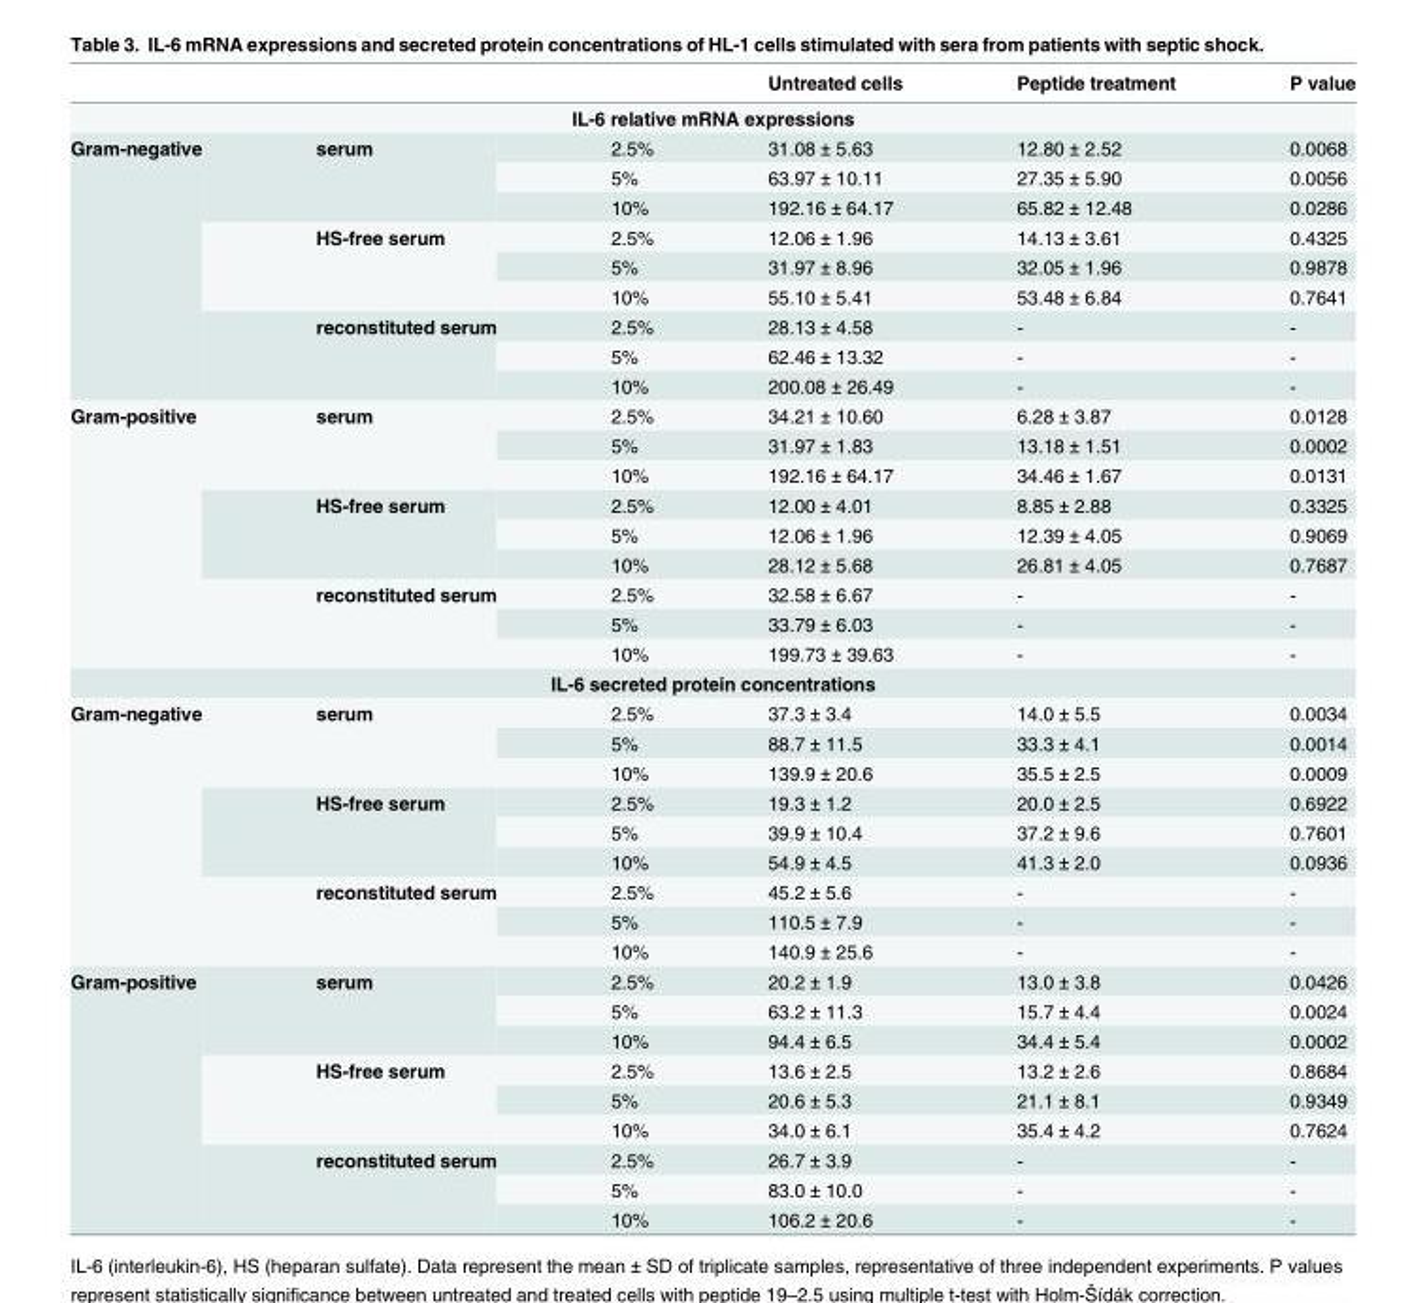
<table><thead><tr><td></td><td></td><td></td><td>Untreated cells</td><td>Peptide treatment</td><td>P value</td></tr></thead><tbody><tr><td colspan="6">IL-6 relative mRNA expressions</td></tr><tr><td rowspan="9">Gram-negative</td><td rowspan="3">serum</td><td>2.5%</td><td>31.08 ± 5.63</td><td>12.80 ± 2.52</td><td>0.0068</td></tr><tr><td>5%</td><td>63.97 ± 10.11</td><td>27.35 ± 5.90</td><td>0.0056</td></tr><tr><td>10%</td><td>192.16 ± 64.17</td><td>65.82 ± 12.48</td><td>0.0286</td></tr><tr><td rowspan="3">HS-free serum</td><td>2.5%</td><td>12.06 ± 1.96</td><td>14.13 ± 3.61</td><td>0.4325</td></tr><tr><td>5%</td><td>31.97 ± 8.96</td><td>32.05 ± 1.96</td><td>0.9878</td></tr><tr><td>10%</td><td>55.10 ± 5.41</td><td>53.48 ± 6.84</td><td>0.7641</td></tr><tr><td rowspan="3">reconstituted serum</td><td>2.5%</td><td>28.13 ± 4.58</td><td>-</td><td>-</td></tr><tr><td>5%</td><td>62.46 ± 13.32</td><td>-</td><td>-</td></tr><tr><td>10%</td><td>200.08 ± 26.49</td><td>-</td><td>-</td></tr><tr><td rowspan="9">Gram-positive</td><td rowspan="3">serum</td><td>2.5%</td><td>34.21 ± 10.60</td><td>6.28 ± 3.87</td><td>0.0128</td></tr><tr><td>5%</td><td>31.97 ± 1.83</td><td>13.18 ± 1.51</td><td>0.0002</td></tr><tr><td>10%</td><td>192.16 ± 64.17</td><td>34.46 ± 1.67</td><td>0.0131</td></tr><tr><td rowspan="3">HS-free serum</td><td>2.5%</td><td>12.00 ± 4.01</td><td>8.85 ± 2.88</td><td>0.3325</td></tr><tr><td>5%</td><td>12.06 ± 1.96</td><td>12.39 ± 4.05</td><td>0.9069</td></tr><tr><td>10%</td><td>28.12 ± 5.68</td><td>26.81 ± 4.05</td><td>0.7687</td></tr><tr><td rowspan="3">reconstituted serum</td><td>2.5%</td><td>32.58 ± 6.67</td><td>-</td><td>-</td></tr><tr><td>5%</td><td>33.79 ± 6.03</td><td>-</td><td>-</td></tr><tr><td>10%</td><td>199.73 ± 39.63</td><td>-</td><td>-</td></tr><tr><td colspan="6">IL-6 secreted protein concentrations</td></tr><tr><td rowspan="9">Gram-negative</td><td rowspan="3">serum</td><td>2.5%</td><td>37.3 ± 3.4</td><td>14.0 ± 5.5</td><td>0.0034</td></tr><tr><td>5%</td><td>88.7 ± 11.5</td><td>33.3 ± 4.1</td><td>0.0014</td></tr><tr><td>10%</td><td>139.9 ± 20.6</td><td>35.5 ± 2.5</td><td>0.0009</td></tr><tr><td rowspan="3">HS-free serum</td><td>2.5%</td><td>19.3 ± 1.2</td><td>20.0 ± 2.5</td><td>0.6922</td></tr><tr><td>5%</td><td>39.9 ± 10.4</td><td>37.2 ± 9.6</td><td>0.7601</td></tr><tr><td>10%</td><td>54.9 ± 4.5</td><td>41.3 ± 2.0</td><td>0.0936</td></tr><tr><td rowspan="3">reconstituted serum</td><td>2.5%</td><td>45.2 ± 5.6</td><td>-</td><td>-</td></tr><tr><td>5%</td><td>110.5 ± 7.9</td><td>-</td><td>-</td></tr><tr><td>10%</td><td>140.9 ± 25.6</td><td>-</td><td>-</td></tr><tr><td rowspan="9">Gram-positive</td><td rowspan="3">serum</td><td>2.5%</td><td>20.2 ± 1.9</td><td>13.0 ± 3.8</td><td>0.0426</td></tr><tr><td>5%</td><td>63.2 ± 11.3</td><td>15.7 ± 4.4</td><td>0.0024</td></tr><tr><td>10%</td><td>94.4 ± 6.5</td><td>34.4 ± 5.4</td><td>0.0002</td></tr><tr><td rowspan="3">HS-free serum</td><td>2.5%</td><td>13.6 ± 2.5</td><td>13.2 ± 2.6</td><td>0.8684</td></tr><tr><td>5%</td><td>20.6 ± 5.3</td><td>21.1 ± 8.1</td><td>0.9349</td></tr><tr><td>10%</td><td>34.0 ± 6.1</td><td>35.4 ± 4.2</td><td>0.7624</td></tr><tr><td rowspan="3">reconstituted serum</td><td>2.5%</td><td>26.7 ± 3.9</td><td>-</td><td>-</td></tr><tr><td>5%</td><td>83.0 ± 10.0</td><td>-</td><td>-</td></tr><tr><td>10%</td><td>106.2 ± 20.6</td><td>-</td><td>-</td></tr></tbody></table>